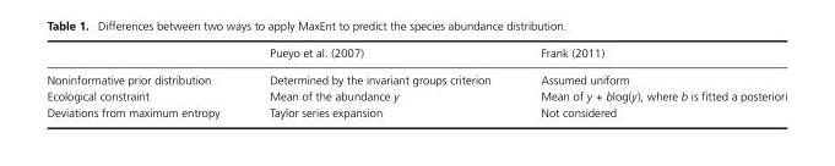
<table><thead><tr><td></td><td>Pueyo et al. (2007)</td><td>Frank (2011)</td></tr></thead><tbody><tr><td>Noninformative prior distribution</td><td>Determined by the invariant groups criterion</td><td>Assumed uniform</td></tr><tr><td>Ecological constraint</td><td>Mean of the abundance y</td><td>Mean of y + blog(y), where b is fitted a posteriori</td></tr><tr><td>Deviations from maximum entropy</td><td>Taylor series expansion</td><td>Not considered</td></tr></tbody></table>